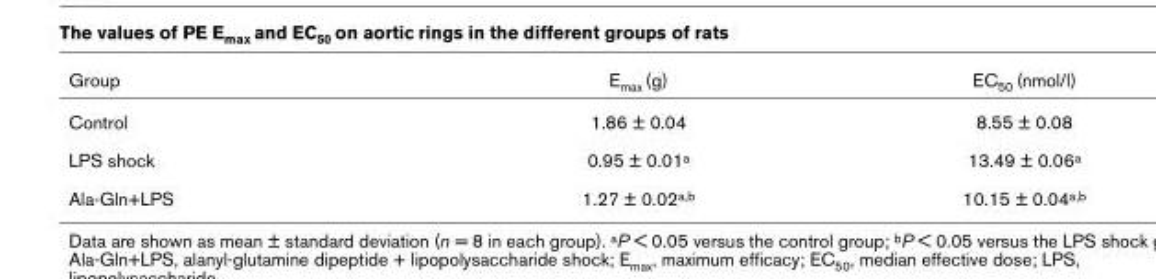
<table><thead><tr><td>Group</td><td>E<sub>max</sub> (g)</td><td>EC<sub>50</sub> (nmol/l)</td></tr></thead><tbody><tr><td>Control</td><td>1.86 ± 0.04</td><td>8.55 ± 0.08</td></tr><tr><td>LPS shock</td><td>0.95 ± 0.01<sup>a</sup></td><td>13.49 ± 0.06<sup>a</sup></td></tr><tr><td>Ala-Gln+LPS</td><td>1.27 ± 0.02<sup>a,b</sup></td><td>10.15 ± 0.04<sup>a,b</sup></td></tr></tbody></table>